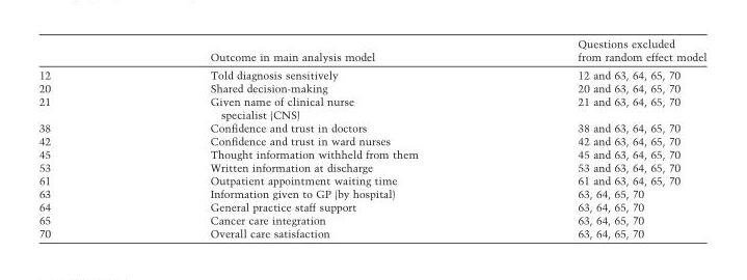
<table><thead><tr><td></td><td>Outcome in main analysis model</td><td>Questions excluded from random effect model</td></tr></thead><tbody><tr><td>12</td><td>Told diagnosis sensitively</td><td>12 and 63, 64, 65, 70</td></tr><tr><td>20</td><td>Shared decision-making</td><td>20 and 63, 64, 65, 70</td></tr><tr><td>21</td><td>Given name of clinical nurse specialist (CNS)</td><td>21 and 63, 64, 65, 70</td></tr><tr><td>38</td><td>Confidence and trust in doctors</td><td>38 and 63, 64, 65, 70</td></tr><tr><td>42</td><td>Confidence and trust in ward nurses</td><td>42 and 63, 64, 65, 70</td></tr><tr><td>45</td><td>Thought information withheld from them</td><td>45 and 63, 64, 65, 70</td></tr><tr><td>53</td><td>Written information at discharge</td><td>53 and 63, 64, 65, 70</td></tr><tr><td>61</td><td>Outpatient appointment waiting time</td><td>61 and 63, 64, 65, 70</td></tr><tr><td>63</td><td>Information given to GP (by hospital)</td><td>63, 64, 65, 70</td></tr><tr><td>64</td><td>General practice staff support</td><td>63, 64, 65, 70</td></tr><tr><td>65</td><td>Cancer care integration</td><td>63, 64, 65, 70</td></tr><tr><td>70</td><td>Overall care satisfaction</td><td>63, 64, 65, 70</td></tr></tbody></table>